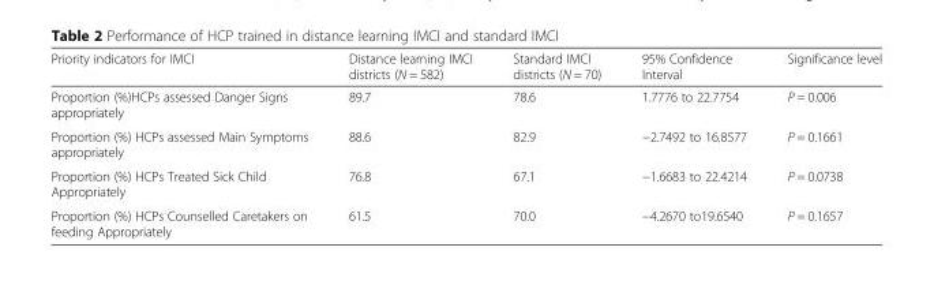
<table><thead><tr><td>Priority indicators for IMCI</td><td>Distance learning IMCI districts (N = 582)</td><td>Standard IMCI districts (N = 70)</td><td>95% Confidence Interval</td><td>Significance level</td></tr></thead><tbody><tr><td>Proportion (%)HCPs assessed Danger Signs appropriately</td><td>89.7</td><td>78.6</td><td>1.7776 to 22.7754</td><td>P = 0.006</td></tr><tr><td>Proportion (%) HCPs assessed Main Symptoms appropriately</td><td>88.6</td><td>82.9</td><td>−2.7492 to 16.8577</td><td>P = 0.1661</td></tr><tr><td>Proportion (%) HCPs Treated Sick Child Appropriately</td><td>76.8</td><td>67.1</td><td>−1.6683 to 22.4214</td><td>P = 0.0738</td></tr><tr><td>Proportion (%) HCPs Counselled Caretakers on feeding Appropriately</td><td>61.5</td><td>70.0</td><td>−4.2670 to19.6540</td><td>P = 0.1657</td></tr></tbody></table>